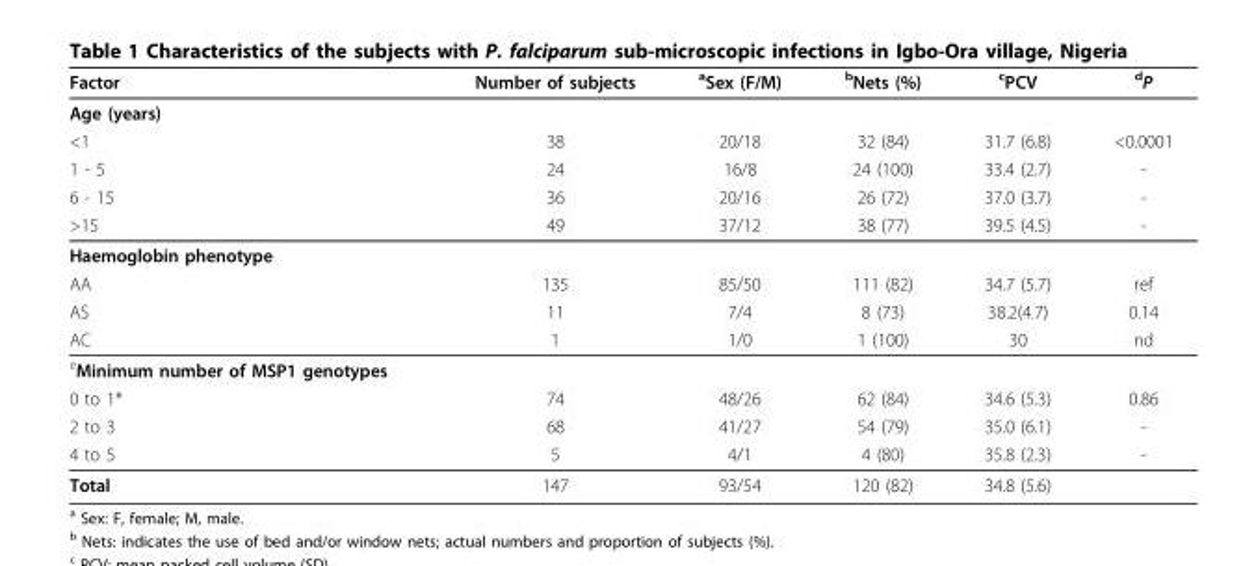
<table><thead><tr><td>Factor</td><td>Number of subjects</td><td><sup>a</sup>Sex (F/M)</td><td><sup>b</sup>Nets (%)</td><td><sup>c</sup>PCV</td><td><sup>d</sup>P</td></tr></thead><tbody><tr><td colspan="6">Age (years)</td></tr><tr><td>&lt;1</td><td>38</td><td>20/18</td><td>32 (84)</td><td>31.7 (6.8)</td><td>&lt;0.0001</td></tr><tr><td>1 - 5</td><td>24</td><td>16/8</td><td>24 (100)</td><td>33.4 (2.7)</td><td>-</td></tr><tr><td>6 - 15</td><td>36</td><td>20/16</td><td>26 (72)</td><td>37.0 (3.7)</td><td>-</td></tr><tr><td>&gt;15</td><td>49</td><td>37/12</td><td>38 (77)</td><td>39.5 (4.5)</td><td>-</td></tr><tr><td colspan="6">Haemoglobin phenotype</td></tr><tr><td>AA</td><td>135</td><td>85/50</td><td>111 (82)</td><td>34.7 (5.7)</td><td>ref</td></tr><tr><td>AS</td><td>11</td><td>7/4</td><td>8 (73)</td><td>38.2(4.7)</td><td>0.14</td></tr><tr><td>AC</td><td>1</td><td>1/0</td><td>1 (100)</td><td>30</td><td>nd</td></tr><tr><td colspan="6"><sup>e</sup>Minimum number of MSP1 genotypes</td></tr><tr><td>0 to 1*</td><td>74</td><td>48/26</td><td>62 (84)</td><td>34.6 (5.3)</td><td>0.86</td></tr><tr><td>2 to 3</td><td>68</td><td>41/27</td><td>54 (79)</td><td>35.0 (6.1)</td><td>-</td></tr><tr><td>4 to 5</td><td>5</td><td>4/1</td><td>4 (80)</td><td>35.8 (2.3)</td><td>-</td></tr><tr><td>Total</td><td>147</td><td>93/54</td><td>120 (82)</td><td>34.8 (5.6)</td><td></td></tr></tbody></table>